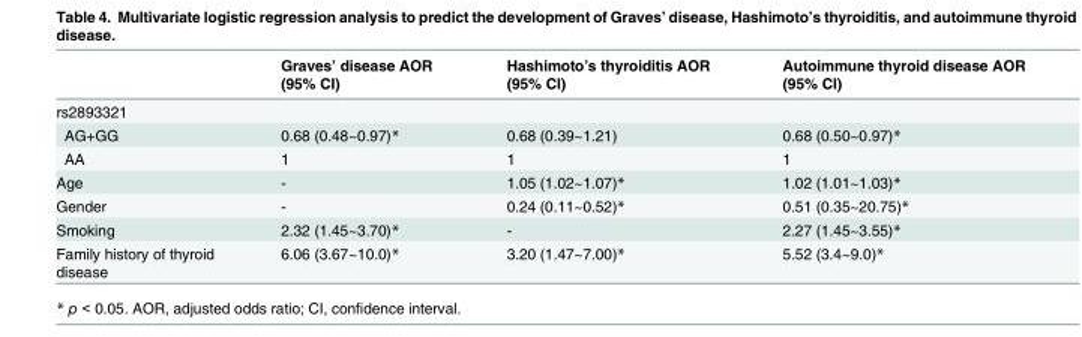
<table><thead><tr><td></td><td>Graves’ disease AOR (95% CI)</td><td>Hashimoto’s thyroiditis AOR (95% CI)</td><td>Autoimmune thyroid disease AOR (95% CI)</td></tr></thead><tbody><tr><td colspan="4">rs2893321</td></tr><tr><td>AG+GG</td><td>0.68 (0.48~0.97)*</td><td>0.68 (0.39~1.21)</td><td>0.68 (0.50~0.97)*</td></tr><tr><td>AA</td><td>1</td><td>1</td><td>1</td></tr><tr><td>Age</td><td>-</td><td>1.05 (1.02~1.07)*</td><td>1.02 (1.01~1.03)*</td></tr><tr><td>Gender</td><td>-</td><td>0.24 (0.11~0.52)*</td><td>0.51 (0.35~20.75)*</td></tr><tr><td>Smoking</td><td>2.32 (1.45~3.70)*</td><td>-</td><td>2.27 (1.45~3.55)*</td></tr><tr><td>Family history of thyroid disease</td><td>6.06 (3.67~10.0)*</td><td>3.20 (1.47~7.00)*</td><td>5.52 (3.4~9.0)*</td></tr></tbody></table>